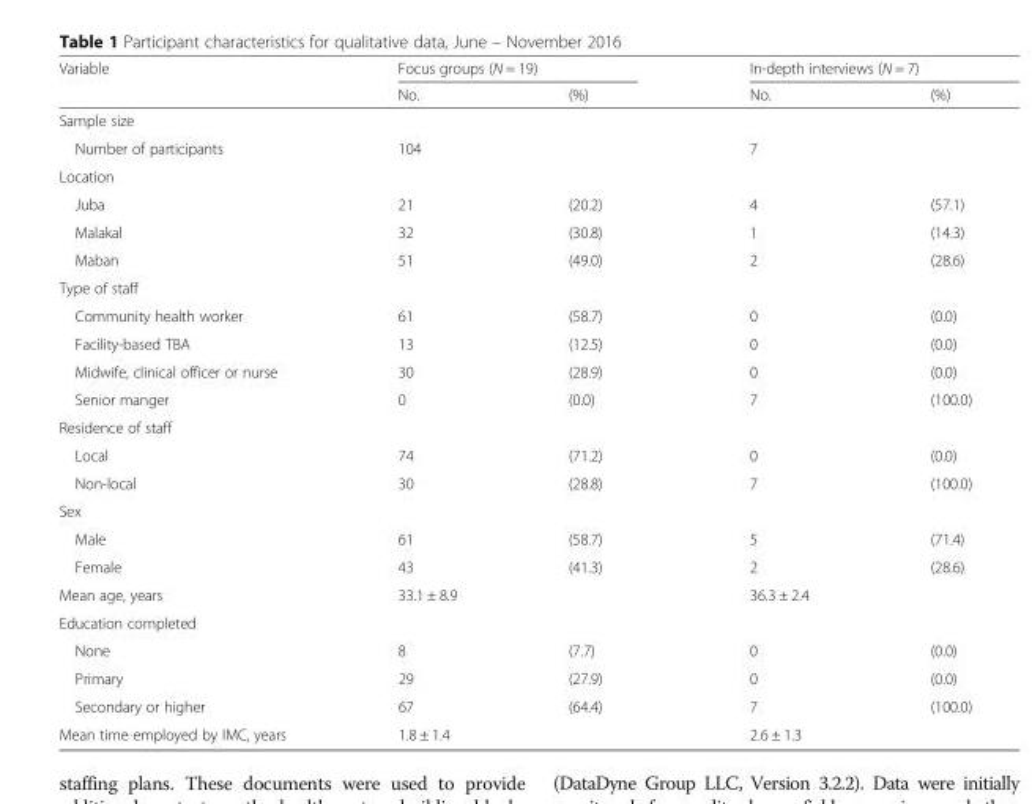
<table><thead><tr><td rowspan="2">Variable</td><td colspan="2">Focus groups (N = 19)</td><td colspan="2">In-depth interviews (N = 7)</td></tr><tr><td>No.</td><td>(%)</td><td>No.</td><td>(%)</td></tr></thead><tbody><tr><td colspan="5">Sample size</td></tr><tr><td>Number of participants</td><td>104</td><td></td><td>7</td><td></td></tr><tr><td colspan="5">Location</td></tr><tr><td>Juba</td><td>21</td><td>(20.2)</td><td>4</td><td>(57.1)</td></tr><tr><td>Malakal</td><td>32</td><td>(30.8)</td><td>1</td><td>(14.3)</td></tr><tr><td>Maban</td><td>51</td><td>(49.0)</td><td>2</td><td>(28.6)</td></tr><tr><td colspan="5">Type of staff</td></tr><tr><td>Community health worker</td><td>61</td><td>(58.7)</td><td>0</td><td>(0.0)</td></tr><tr><td>Facility-based TBA</td><td>13</td><td>(12.5)</td><td>0</td><td>(0.0)</td></tr><tr><td>Midwife, clinical officer or nurse</td><td>30</td><td>(28.9)</td><td>0</td><td>(0.0)</td></tr><tr><td>Senior manger</td><td>0</td><td>(0.0)</td><td>7</td><td>(100.0)</td></tr><tr><td colspan="5">Residence of staff</td></tr><tr><td>Local</td><td>74</td><td>(71.2)</td><td>0</td><td>(0.0)</td></tr><tr><td>Non-local</td><td>30</td><td>(28.8)</td><td>7</td><td>(100.0)</td></tr><tr><td colspan="5">Sex</td></tr><tr><td>Male</td><td>61</td><td>(58.7)</td><td>5</td><td>(71.4)</td></tr><tr><td>Female</td><td>43</td><td>(41.3)</td><td>2</td><td>(28.6)</td></tr><tr><td>Mean age, years</td><td colspan="2">33.1 ± 8.9</td><td colspan="2">36.3 ± 2.4</td></tr><tr><td colspan="5">Education completed</td></tr><tr><td>None</td><td>8</td><td>(7.7)</td><td>0</td><td>(0.0)</td></tr><tr><td>Primary</td><td>29</td><td>(27.9)</td><td>0</td><td>(0.0)</td></tr><tr><td>Secondary or higher</td><td>67</td><td>(64.4)</td><td>7</td><td>(100.0)</td></tr><tr><td>Mean time employed by IMC, years</td><td colspan="2">1.8 ± 1.4</td><td colspan="2">2.6 ± 1.3</td></tr></tbody></table>